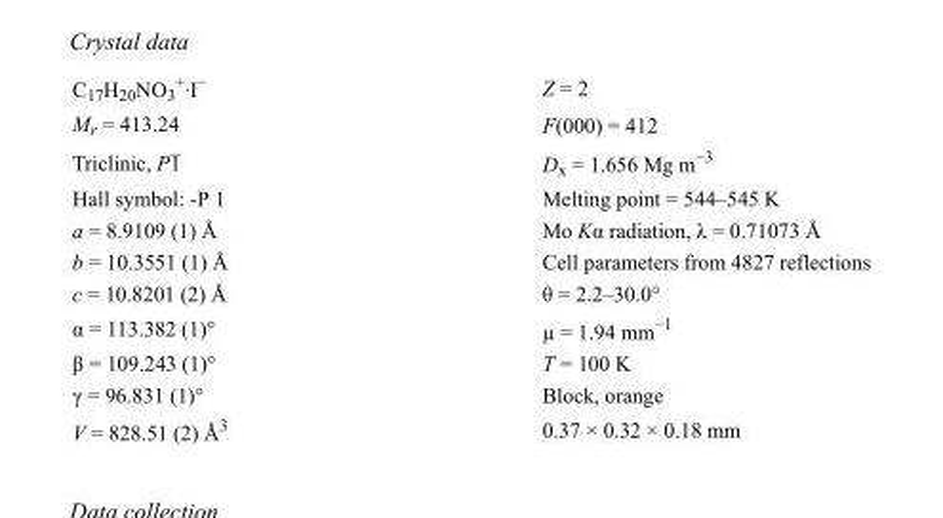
<table><tbody><tr><td>C<sub>17</sub>H<sub>20</sub>NO<sub>3</sub> <sup>+</sup>·I<sup>−</sup></td><td>Z = 2</td></tr><tr><td>M<sub>r</sub> = 413.24</td><td>F(000) = 412</td></tr><tr><td>Triclinic, P1</td><td>D<sub>x</sub> = 1.656 Mg m<sup>−3</sup></td></tr><tr><td>Hall symbol: -P 1</td><td>Melting point = 544–545 K</td></tr><tr><td>a = 8.9109 (1) Å</td><td>Mo Kα radiation, λ = 0.71073 Å</td></tr><tr><td>b = 10.3551 (1) Å</td><td>Cell parameters from 4827 reflections</td></tr><tr><td>c = 10.8201 (2) Å</td><td>θ = 2.2–30.0°</td></tr><tr><td>α = 113.382 (1)°</td><td>µ = 1.94 mm<sup>−1</sup></td></tr><tr><td>β = 109.243 (1)°</td><td>T = 100 K</td></tr><tr><td>γ = 96.831 (1)°</td><td>Block, orange</td></tr><tr><td>V = 828.51 (2) Å<sup>3</sup></td><td>0.37 × 0.32 × 0.18 mm</td></tr></tbody></table>